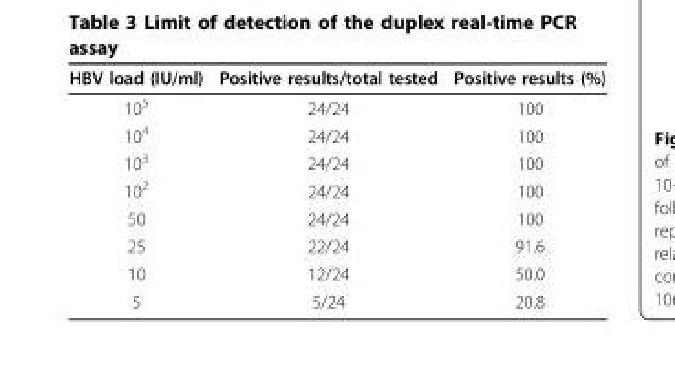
<table><thead><tr><td>HBV load (IU/ml)</td><td>Positive results/total tested</td><td>Positive results (%)</td></tr></thead><tbody><tr><td>10<sup>5</sup></td><td>24/24</td><td>100</td></tr><tr><td>10<sup>4</sup></td><td>24/24</td><td>100</td></tr><tr><td>10<sup>3</sup></td><td>24/24</td><td>100</td></tr><tr><td>10<sup>2</sup></td><td>24/24</td><td>100</td></tr><tr><td>50</td><td>24/24</td><td>100</td></tr><tr><td>25</td><td>22/24</td><td>91.6</td></tr><tr><td>10</td><td>12/24</td><td>50.0</td></tr><tr><td>5</td><td>5/24</td><td>20.8</td></tr></tbody></table>